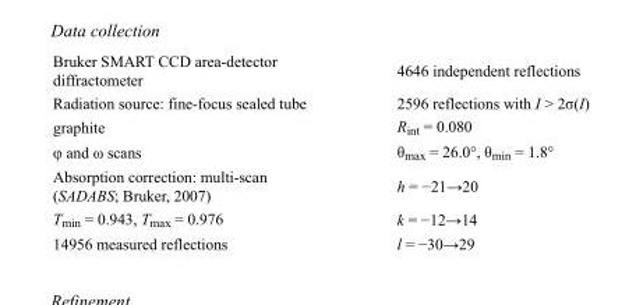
<table><tbody><tr><td>Bruker SMART CCD area-detector diffractometer</td><td>4646 independent reflections</td></tr><tr><td>Radiation source: fine-focus sealed tube</td><td>2596 reflections with I &gt; 2σ(I)</td></tr><tr><td>graphite</td><td>R<sub>int</sub> = 0.080</td></tr><tr><td>φ and ω scans</td><td>θ<sub>max</sub> = 26.0°, θ<sub>min</sub> = 1.8°</td></tr><tr><td>Absorption correction: multi-scan (SADABS; Bruker, 2007)</td><td>h = −21→20</td></tr><tr><td>T<sub>min</sub> = 0.943, T<sub>max</sub> = 0.976</td><td>k = −12→14</td></tr><tr><td>14956 measured reflections</td><td>l = −30→29</td></tr></tbody></table>